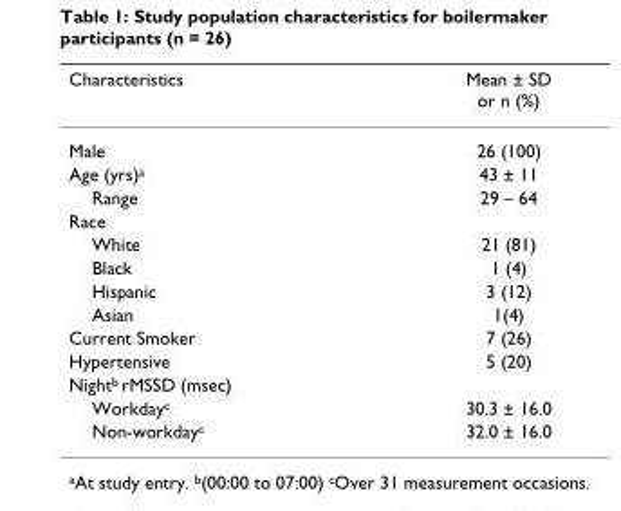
<table><thead><tr><td>Characteristics</td><td>Mean ± SD or n (%)</td></tr></thead><tbody><tr><td>Male</td><td>26 (100)</td></tr><tr><td>Age (yrs)<sup>a</sup></td><td>43 ± 11</td></tr><tr><td>Range</td><td>29 – 64</td></tr><tr><td colspan="2">Race</td></tr><tr><td>White</td><td>21 (81)</td></tr><tr><td>Black</td><td>1 (4)</td></tr><tr><td>Hispanic</td><td>3 (12)</td></tr><tr><td>Asian</td><td>1(4)</td></tr><tr><td>Current Smoker</td><td>7 (26)</td></tr><tr><td>Hypertensive</td><td>5 (20)</td></tr><tr><td colspan="2">Night<sup>b</sup> rMSSD (msec)</td></tr><tr><td>Workday<sup>c</sup></td><td>30.3 ± 16.0</td></tr><tr><td>Non-workday<sup>c</sup></td><td>32.0 ± 16.0</td></tr></tbody></table>